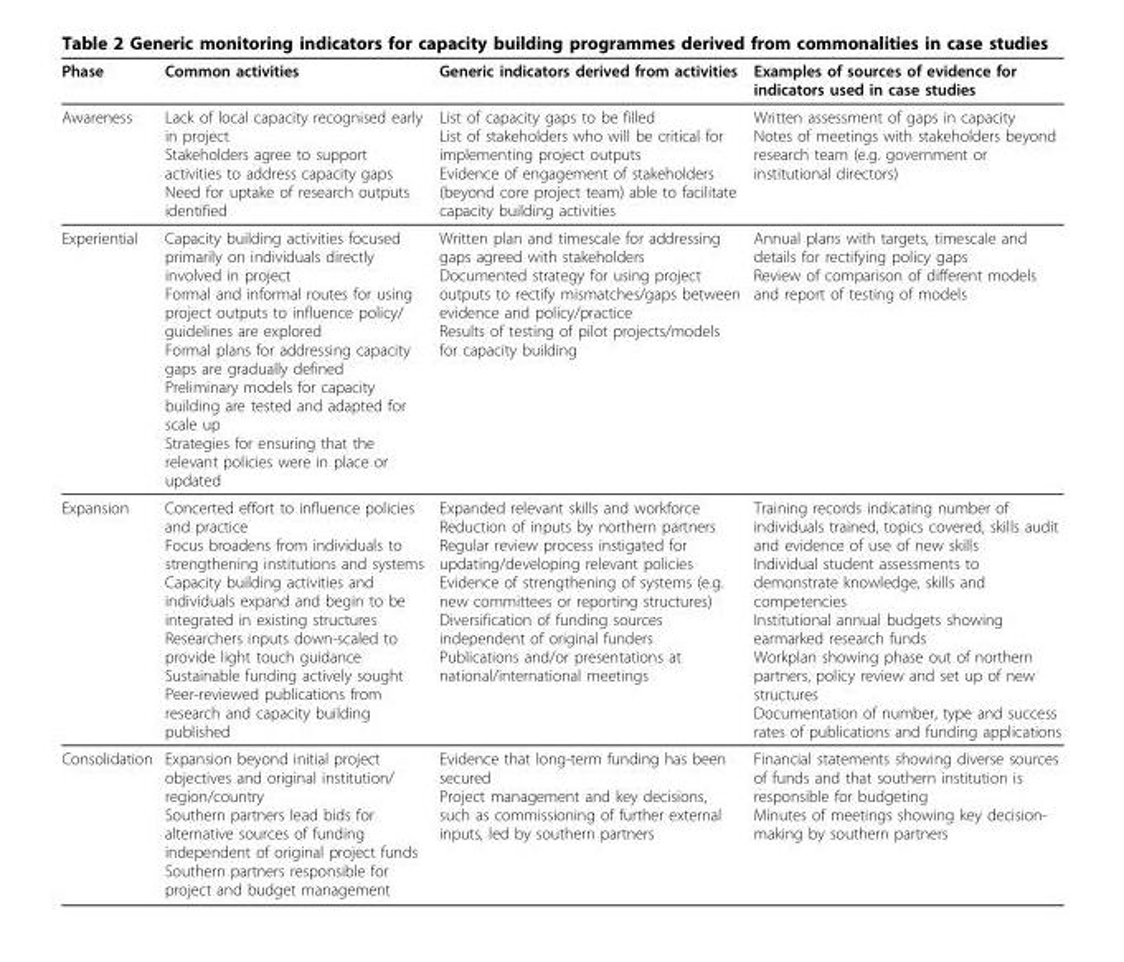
<table><thead><tr><td>Phase</td><td>Common activities</td><td>Generic indicators derived from activities</td><td>Examples of sources of evidence for indicators used in case studies</td></tr></thead><tbody><tr><td>Awareness</td><td>Lack of local capacity recognised early in project Stakeholders agree to support activities to address capacity gaps Need for uptake of research outputs identified</td><td>List of capacity gaps to be filled List of stakeholders who will be critical for implementing project outputs Evidence of engagement of stakeholders (beyond core project team) able to facilitate capacity building activities</td><td>Written assessment of gaps in capacity Notes of meetings with stakeholders beyond research team (e.g. government or institutional directors)</td></tr><tr><td>Experiential</td><td>Capacity building activities focused primarily on individuals directly involved in project Formal and informal routes for using project outputs to influence policy/ guidelines are explored Formal plans for addressing capacity gaps are gradually defined Preliminary models for capacity building are tested and adapted for scale up Strategies for ensuring that the relevant policies were in place or updated</td><td>Written plan and timescale for addressing gaps agreed with stakeholders Documented strategy for using project outputs to rectify mismatches/gaps between evidence and policy/practice Results of testing of pilot projects/models for capacity building</td><td>Annual plans with targets, timescale and details for rectifying policy gaps Review of comparison of different models and report of testing of models</td></tr><tr><td>Expansion</td><td>Concerted effort to influence policies and practice Focus broadens from individuals to strengthening institutions and systems Capacity building activities and individuals expand and begin to be integrated in existing structures Researchers inputs down-scaled to provide light touch guidance Sustainable funding actively sought Peer-reviewed publications from research and capacity building published</td><td>Expanded relevant skills and workforce Reduction of inputs by northern partners Regular review process instigated for updating/developing relevant policies Evidence of strengthening of systems (e.g. new committees or reporting structures) Diversification of funding sources independent of original funders Publications and/or presentations at national/international meetings</td><td>Training records indicating number of individuals trained, topics covered, skills audit and evidence of use of new skills Individual student assessments to demonstrate knowledge, skills and competencies Institutional annual budgets showing earmarked research funds Workplan showing phase out of northern partners, policy review and set up of new structures Documentation of number, type and success rates of publications and funding applications</td></tr><tr><td>Consolidation</td><td>Expansion beyond initial project objectives and original institution/ region/country Southern partners lead bids for alternative sources of funding independent of original project funds Southern partners responsible for project and budget management</td><td>Evidence that long-term funding has been secured Project management and key decisions, such as commissioning of further external inputs, led by southern partners</td><td>Financial statements showing diverse sources of funds and that southern institution is responsible for budgeting Minutes of meetings showing key decision- making by southern partners</td></tr></tbody></table>